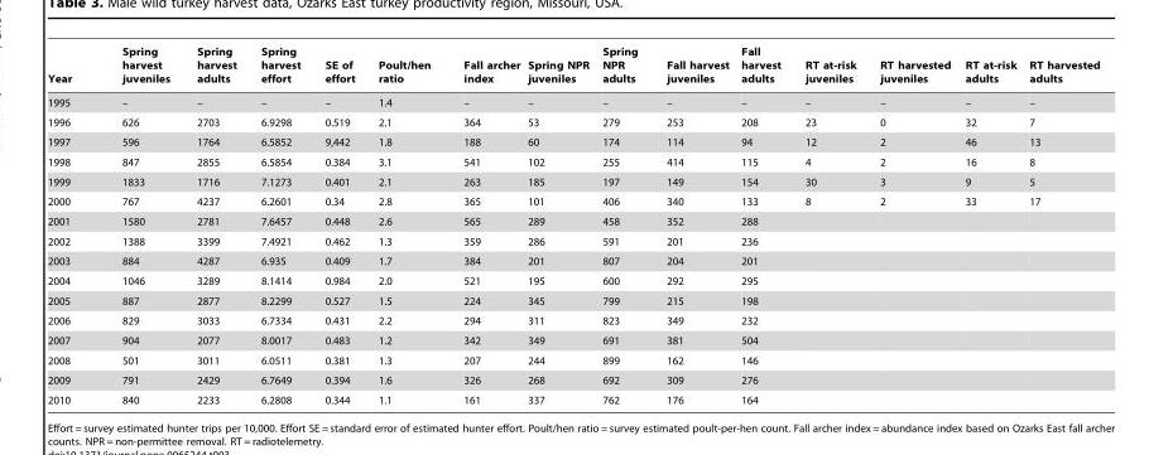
<table><thead><tr><td>Year</td><td>Spring harvest juveniles</td><td>Spring harvest adults</td><td>Spring harvest effort</td><td>SE of effort</td><td>Poult/hen ratio</td><td>Fall archer index</td><td>Spring NPR juveniles</td><td>Spring NPR adults</td><td>Fall harvest juveniles</td><td>Fall harvest adults</td><td>RT at-risk juveniles</td><td>RT harvested juveniles</td><td>RT at-risk adults</td><td>RT harvested adults</td></tr></thead><tbody><tr><td>1995</td><td>–</td><td>–</td><td>–</td><td>–</td><td>1.4</td><td>–</td><td>–</td><td>–</td><td>–</td><td>–</td><td>–</td><td>–</td><td>–</td><td>–</td></tr><tr><td>1996</td><td>626</td><td>2703</td><td>6.9298</td><td>0.519</td><td>2.1</td><td>364</td><td>53</td><td>279</td><td>253</td><td>208</td><td>23</td><td>0</td><td>32</td><td>7</td></tr><tr><td>1997</td><td>596</td><td>1764</td><td>6.5852</td><td>9,442</td><td>1.8</td><td>188</td><td>60</td><td>174</td><td>114</td><td>94</td><td>12</td><td>2</td><td>46</td><td>13</td></tr><tr><td>1998</td><td>847</td><td>2855</td><td>6.5854</td><td>0.384</td><td>3.1</td><td>541</td><td>102</td><td>255</td><td>414</td><td>115</td><td>4</td><td>2</td><td>16</td><td>8</td></tr><tr><td>1999</td><td>1833</td><td>1716</td><td>7.1273</td><td>0.401</td><td>2.1</td><td>263</td><td>185</td><td>197</td><td>149</td><td>154</td><td>30</td><td>3</td><td>9</td><td>5</td></tr><tr><td>2000</td><td>767</td><td>4237</td><td>6.2601</td><td>0.34</td><td>2.8</td><td>365</td><td>101</td><td>406</td><td>340</td><td>133</td><td>8</td><td>2</td><td>33</td><td>17</td></tr><tr><td>2001</td><td>1580</td><td>2781</td><td>7.6457</td><td>0.448</td><td>2.6</td><td>565</td><td>289</td><td>458</td><td>352</td><td>288</td><td></td><td></td><td></td><td></td></tr><tr><td>2002</td><td>1388</td><td>3399</td><td>7.4921</td><td>0.462</td><td>1.3</td><td>359</td><td>286</td><td>591</td><td>201</td><td>236</td><td></td><td></td><td></td><td></td></tr><tr><td>2003</td><td>884</td><td>4287</td><td>6.935</td><td>0.409</td><td>1.7</td><td>384</td><td>201</td><td>807</td><td>204</td><td>201</td><td></td><td></td><td></td><td></td></tr><tr><td>2004</td><td>1046</td><td>3289</td><td>8.1414</td><td>0.984</td><td>2.0</td><td>521</td><td>195</td><td>600</td><td>292</td><td>295</td><td></td><td></td><td></td><td></td></tr><tr><td>2005</td><td>887</td><td>2877</td><td>8.2299</td><td>0.527</td><td>1.5</td><td>224</td><td>345</td><td>799</td><td>215</td><td>198</td><td></td><td></td><td></td><td></td></tr><tr><td>2006</td><td>829</td><td>3033</td><td>6.7334</td><td>0.431</td><td>2.2</td><td>294</td><td>311</td><td>823</td><td>349</td><td>232</td><td></td><td></td><td></td><td></td></tr><tr><td>2007</td><td>904</td><td>2077</td><td>8.0017</td><td>0.483</td><td>1.2</td><td>342</td><td>349</td><td>691</td><td>381</td><td>504</td><td></td><td></td><td></td><td></td></tr><tr><td>2008</td><td>501</td><td>3011</td><td>6.0511</td><td>0.381</td><td>1.3</td><td>207</td><td>244</td><td>899</td><td>162</td><td>146</td><td></td><td></td><td></td><td></td></tr><tr><td>2009</td><td>791</td><td>2429</td><td>6.7649</td><td>0.394</td><td>1.6</td><td>326</td><td>268</td><td>692</td><td>309</td><td>276</td><td></td><td></td><td></td><td></td></tr><tr><td>2010</td><td>840</td><td>2233</td><td>6.2808</td><td>0.344</td><td>1.1</td><td>161</td><td>337</td><td>762</td><td>176</td><td>164</td><td></td><td></td><td></td><td></td></tr></tbody></table>